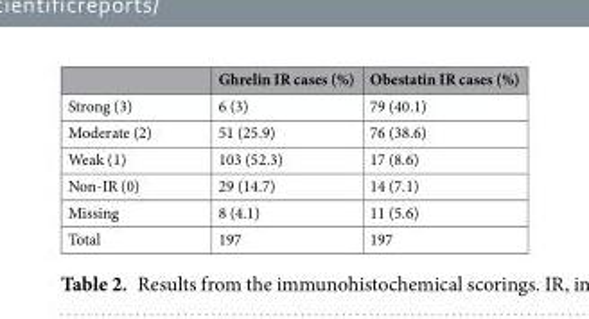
<table><thead><tr><td></td><td>Ghrelin IR cases (%)</td><td>Obestatin IR cases (%)</td></tr></thead><tbody><tr><td>Strong (3)</td><td>6 (3)</td><td>79 (40.1)</td></tr><tr><td>Moderate (2)</td><td>51 (25.9)</td><td>76 (38.6)</td></tr><tr><td>Weak (1)</td><td>103 (52.3)</td><td>17 (8.6)</td></tr><tr><td>Non-IR (0)</td><td>29 (14.7)</td><td>14 (7.1)</td></tr><tr><td>Missing</td><td>8 (4.1)</td><td>11 (5.6)</td></tr><tr><td>Total</td><td>197</td><td>197</td></tr></tbody></table>